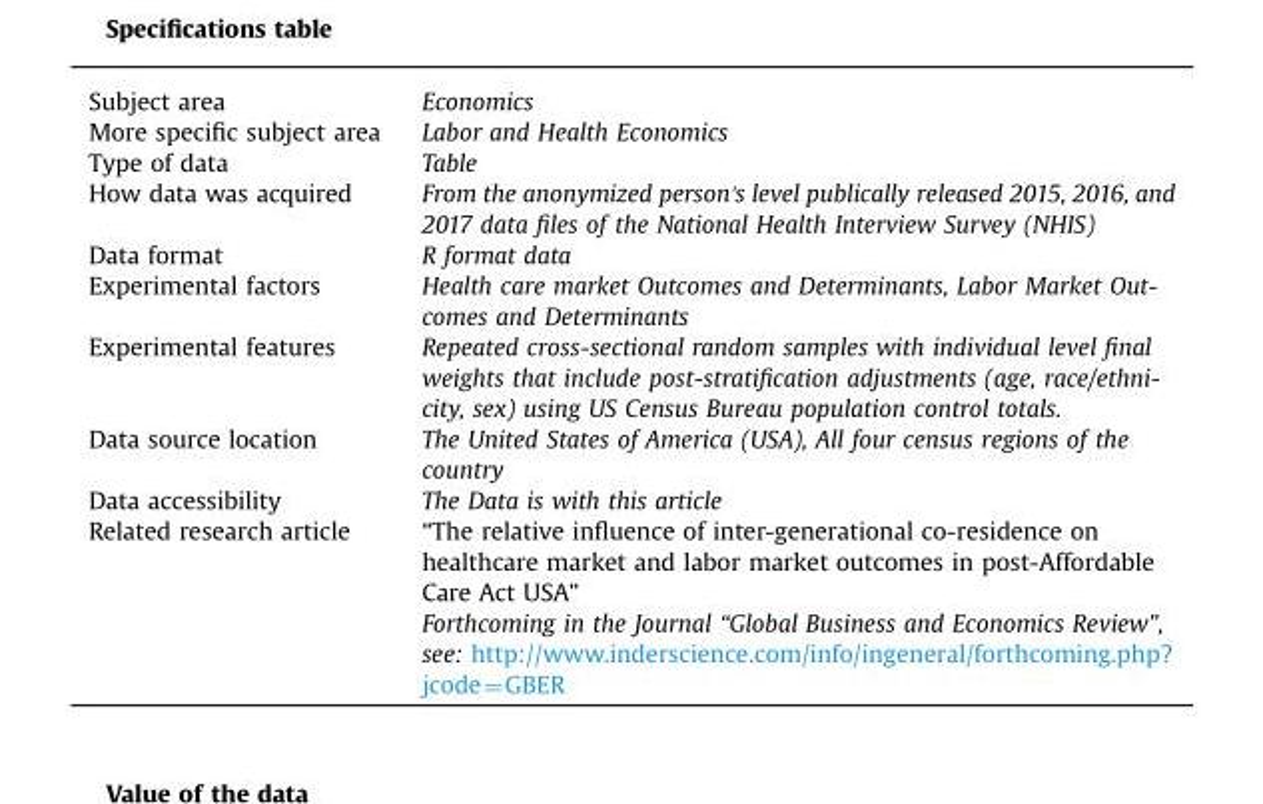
<table><tbody><tr><td>Subject area</td><td>Economics</td></tr><tr><td>More specific subject area</td><td>Labor and Health Economics</td></tr><tr><td>Type of data</td><td>Table</td></tr><tr><td>How data was acquired</td><td>From the anonymized person&#x27;s level publically released 2015, 2016, and 2017 data files of the National Health Interview Survey (NHIS)</td></tr><tr><td>Data format</td><td>R format data</td></tr><tr><td>Experimental factors</td><td>Health care market Outcomes and Determinants, Labor Market Out- comes and Determinants</td></tr><tr><td>Experimental features</td><td>Repeated cross-sectional random samples with individual level final weights that include post-stratification adjustments (age, race/ethni- city, sex) using US Census Bureau population control totals.</td></tr><tr><td>Data source location</td><td>The United States of America (USA), All four census regions of the country</td></tr><tr><td>Data accessibility</td><td>The Data is with this article</td></tr><tr><td rowspan="2">Related research article</td><td>“The relative influence of inter-generational co-residence on healthcare market and labor market outcomes in post-Affordable Care Act USA”</td></tr><tr><td>Forthcoming in the Journal “Global Business and Economics Review”, see: http://www.inderscience.com/info/ingeneral/forthcoming.php? jcode=GBER</td></tr></tbody></table>